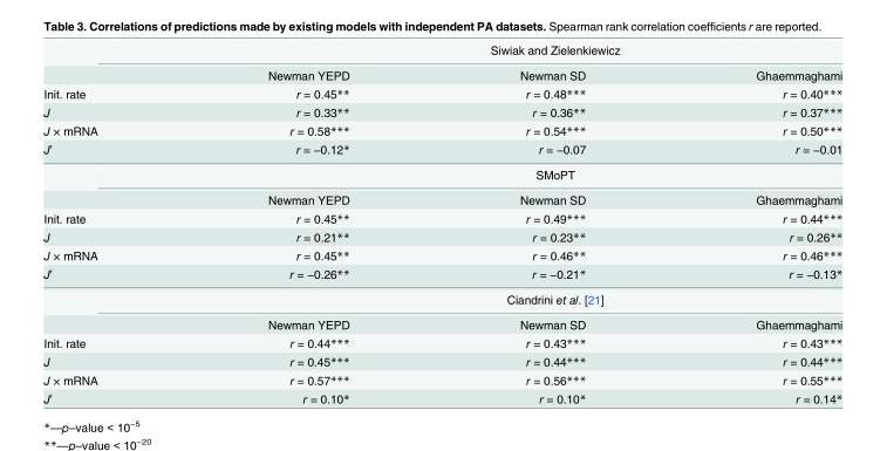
<table><thead><tr><td rowspan="2"></td><td colspan="3">Siwiak and Zielenkiewicz</td></tr><tr><td>Newman YEPD</td><td>Newman SD</td><td>Ghaemmaghami</td></tr></thead><tbody><tr><td>Init. rate</td><td>r = 0.45**</td><td>r = 0.48***</td><td>r = 0.40***</td></tr><tr><td>J</td><td>r = 0.33**</td><td>r = 0.36**</td><td>r = 0.37***</td></tr><tr><td>J × mRNA</td><td>r = 0.58***</td><td>r = 0.54***</td><td>r = 0.50***</td></tr><tr><td rowspan="3">J′</td><td>r = −0.12*</td><td>r = −0.07</td><td>r = −0.01</td></tr><tr><td colspan="3">SMoPT</td></tr><tr><td>Newman YEPD</td><td>Newman SD</td><td>Ghaemmaghami</td></tr><tr><td>Init. rate</td><td>r = 0.45**</td><td>r = 0.49***</td><td>r = 0.44***</td></tr><tr><td>J</td><td>r = 0.21**</td><td>r = 0.23**</td><td>r = 0.26**</td></tr><tr><td>J × mRNA</td><td>r = 0.45**</td><td>r = 0.46**</td><td>r = 0.46***</td></tr><tr><td rowspan="3">J′</td><td>r = −0.26**</td><td>r = −0.21*</td><td>r = −0.13*</td></tr><tr><td colspan="3">Ciandrini et al. [21]</td></tr><tr><td>Newman YEPD</td><td>Newman SD</td><td>Ghaemmaghami</td></tr><tr><td>Init. rate</td><td>r = 0.44***</td><td>r = 0.43***</td><td>r = 0.43***</td></tr><tr><td>J</td><td>r = 0.45***</td><td>r = 0.44***</td><td>r = 0.44***</td></tr><tr><td>J × mRNA</td><td>r = 0.57***</td><td>r = 0.56***</td><td>r = 0.55***</td></tr><tr><td>J′</td><td>r = 0.10*</td><td>r = 0.10*</td><td>r = 0.14*</td></tr></tbody></table>